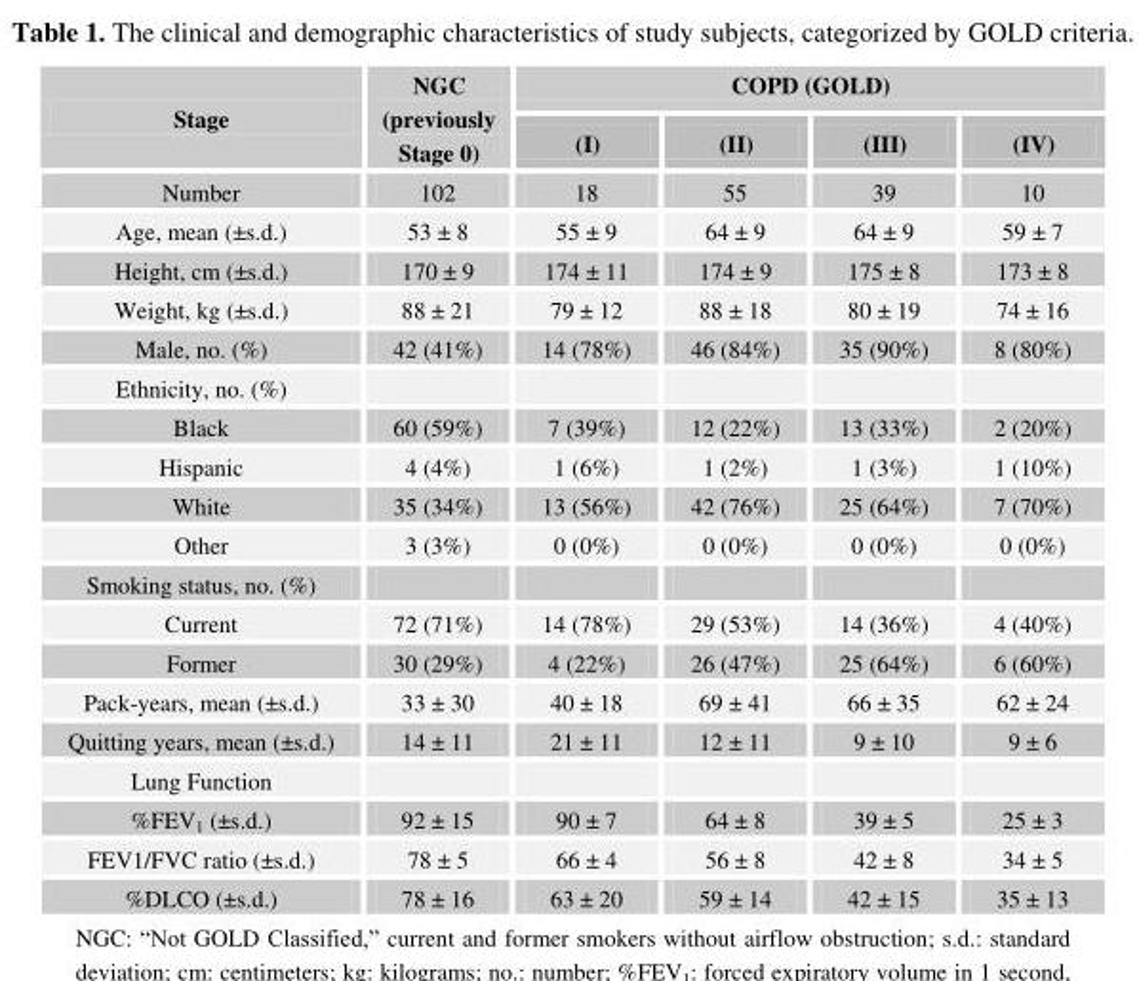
<table><thead><tr><td rowspan="2">Stage</td><td rowspan="2">NGC (previously Stage 0)</td><td colspan="4">COPD (GOLD)</td></tr><tr><td>(I)</td><td>(II)</td><td>(III)</td><td>(IV)</td></tr></thead><tbody><tr><td>Number</td><td>102</td><td>18</td><td>55</td><td>39</td><td>10</td></tr><tr><td>Age, mean (±s.d.)</td><td>53 ± 8</td><td>55 ± 9</td><td>64 ± 9</td><td>64 ± 9</td><td>59 ± 7</td></tr><tr><td>Height, cm (±s.d.)</td><td>170 ± 9</td><td>174 ± 11</td><td>174 ± 9</td><td>175 ± 8</td><td>173 ± 8</td></tr><tr><td>Weight, kg (±s.d.)</td><td>88 ± 21</td><td>79 ± 12</td><td>88 ± 18</td><td>80 ± 19</td><td>74 ± 16</td></tr><tr><td>Male, no. (%)</td><td>42 (41%)</td><td>14 (78%)</td><td>46 (84%)</td><td>35 (90%)</td><td>8 (80%)</td></tr><tr><td colspan="6">Ethnicity, no. (%)</td></tr><tr><td>Black</td><td>60 (59%)</td><td>7 (39%)</td><td>12 (22%)</td><td>13 (33%)</td><td>2 (20%)</td></tr><tr><td>Hispanic</td><td>4 (4%)</td><td>1 (6%)</td><td>1 (2%)</td><td>1 (3%)</td><td>1 (10%)</td></tr><tr><td>White</td><td>35 (34%)</td><td>13 (56%)</td><td>42 (76%)</td><td>25 (64%)</td><td>7 (70%)</td></tr><tr><td>Other</td><td>3 (3%)</td><td>0 (0%)</td><td>0 (0%)</td><td>0 (0%)</td><td>0 (0%)</td></tr><tr><td colspan="6">Smoking status, no. (%)</td></tr><tr><td>Current</td><td>72 (71%)</td><td>14 (78%)</td><td>29 (53%)</td><td>14 (36%)</td><td>4 (40%)</td></tr><tr><td>Former</td><td>30 (29%)</td><td>4 (22%)</td><td>26 (47%)</td><td>25 (64%)</td><td>6 (60%)</td></tr><tr><td>Pack-years, mean (±s.d.)</td><td>33 ± 30</td><td>40 ± 18</td><td>69 ± 41</td><td>66 ± 35</td><td>62 ± 24</td></tr><tr><td>Quitting years, mean (±s.d.)</td><td>14 ± 11</td><td>21 ± 11</td><td>12 ± 11</td><td>9 ± 10</td><td>9 ± 6</td></tr><tr><td colspan="6">Lung Function</td></tr><tr><td>%FEV<sub>1</sub> (±s.d.)</td><td>92 ± 15</td><td>90 ± 7</td><td>64 ± 8</td><td>39 ± 5</td><td>25 ± 3</td></tr><tr><td>FEV1/FVC ratio (±s.d.)</td><td>78 ± 5</td><td>66 ± 4</td><td>56 ± 8</td><td>42 ± 8</td><td>34 ± 5</td></tr><tr><td>%DLCO (±s.d.)</td><td>78 ± 16</td><td>63 ± 20</td><td>59 ± 14</td><td>42 ± 15</td><td>35 ± 13</td></tr></tbody></table>